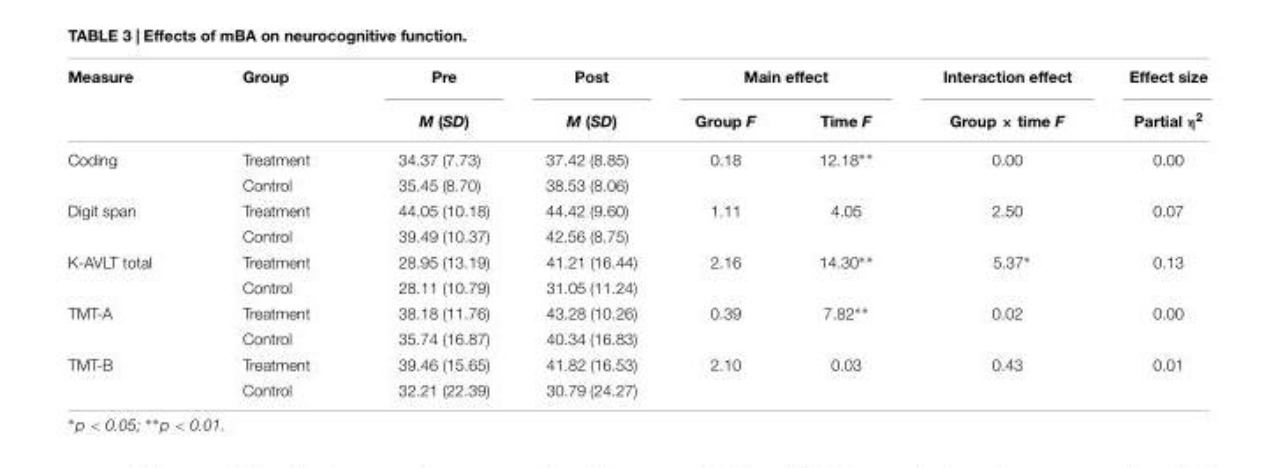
<table><thead><tr><td rowspan="2">Measure</td><td rowspan="2">Group</td><td rowspan="2">Pre M (SD)</td><td rowspan="2">Post M (SD)</td><td colspan="2">Main effect</td><td rowspan="2">Interaction effect Group × time F</td><td rowspan="2">Effect size Partial η<sup>2</sup></td></tr><tr><td>Group F</td><td>Time F</td></tr></thead><tbody><tr><td rowspan="2">Coding</td><td>Treatment</td><td>34.37 (7.73)</td><td>37.42 (8.85)</td><td>0.18</td><td>12.18∗∗</td><td>0.00</td><td>0.00</td></tr><tr><td>Control</td><td>35.45 (8.70)</td><td>38.53 (8.06)</td><td></td><td></td><td></td><td></td></tr><tr><td rowspan="2">Digit span</td><td>Treatment</td><td>44.05 (10.18)</td><td>44.42 (9.60)</td><td>1.11</td><td>4.05</td><td>2.50</td><td>0.07</td></tr><tr><td>Control</td><td>39.49 (10.37)</td><td>42.56 (8.75)</td><td></td><td></td><td></td><td></td></tr><tr><td rowspan="2">K-AVLT total</td><td>Treatment</td><td>28.95 (13.19)</td><td>41.21 (16.44)</td><td>2.16</td><td>14.30∗∗</td><td>5.37∗</td><td>0.13</td></tr><tr><td>Control</td><td>28.11 (10.79)</td><td>31.05 (11.24)</td><td></td><td></td><td></td><td></td></tr><tr><td rowspan="2">TMT-A</td><td>Treatment</td><td>38.18 (11.76)</td><td>43.28 (10.26)</td><td>0.39</td><td>7.82∗∗</td><td>0.02</td><td>0.00</td></tr><tr><td>Control</td><td>35.74 (16.87)</td><td>40.34 (16.83)</td><td></td><td></td><td></td><td></td></tr><tr><td rowspan="2">TMT-B</td><td>Treatment</td><td>39.46 (15.65)</td><td>41.82 (16.53)</td><td>2.10</td><td>0.03</td><td>0.43</td><td>0.01</td></tr><tr><td>Control</td><td>32.21 (22.39)</td><td>30.79 (24.27)</td><td></td><td></td><td></td><td></td></tr></tbody></table>